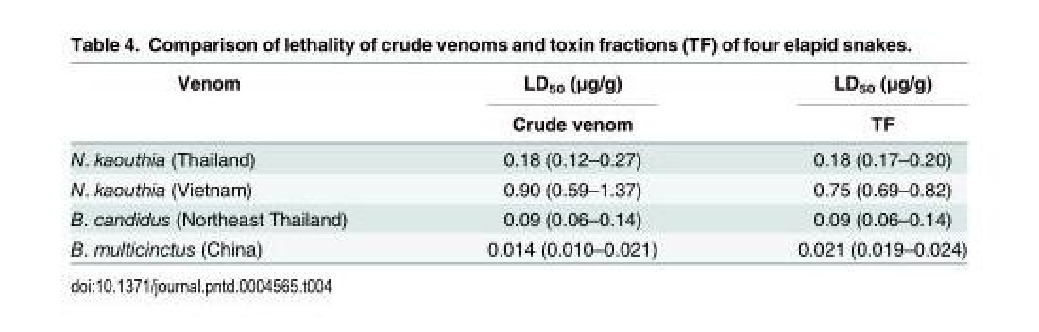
<table><thead><tr><td rowspan="2">Venom</td><td rowspan="2">LD<sub>50</sub> (μg/g) Crude venom</td><td rowspan="2">LD<sub>50</sub> (μg/g) TF</td></tr><tr></tr></thead><tbody><tr><td>N. kaouthia (Thailand)</td><td>0.18 (0.12–0.27)</td><td>0.18 (0.17–0.20)</td></tr><tr><td>N. kaouthia (Vietnam)</td><td>0.90 (0.59–1.37)</td><td>0.75 (0.69–0.82)</td></tr><tr><td>B. candidus (Northeast Thailand)</td><td>0.09 (0.06–0.14)</td><td>0.09 (0.06–0.14)</td></tr><tr><td>B. multicinctus (China)</td><td>0.014 (0.010–0.021)</td><td>0.021 (0.019–0.024)</td></tr></tbody></table>